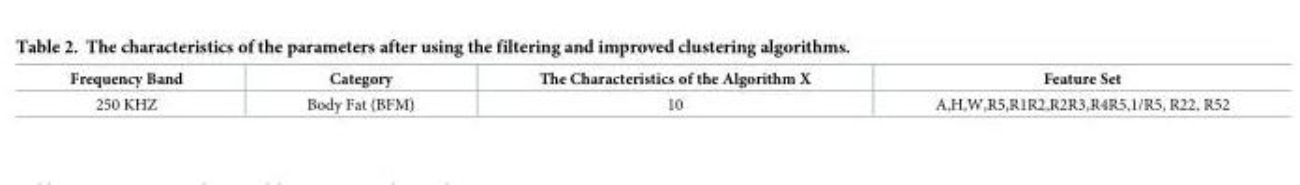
<table><thead><tr><td>Frequency Band</td><td>Category</td><td>The Characteristics of the Algorithm X</td><td>Feature Set</td></tr></thead><tbody><tr><td>250 KHZ</td><td>Body Fat (BFM)</td><td>10</td><td>A,H,W,R5,R1R2,R2R3,R4R5,1/R5, R22, R52</td></tr></tbody></table>